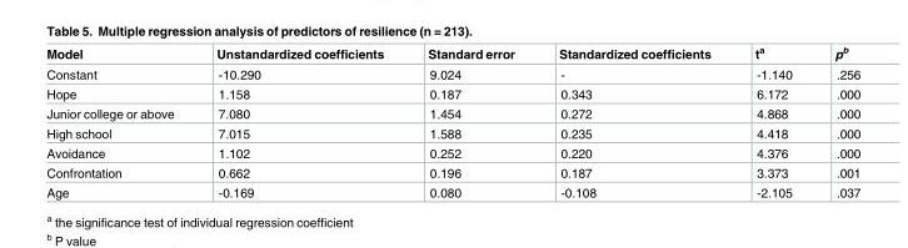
<table><thead><tr><td>Model</td><td>Unstandardized coefficients</td><td>Standard error</td><td>Standardized coefficients</td><td>t<sup>a</sup></td><td>p<sup>b</sup></td></tr></thead><tbody><tr><td>Constant</td><td>-10.290</td><td>9.024</td><td>-</td><td>-1.140</td><td>.256</td></tr><tr><td>Hope</td><td>1.158</td><td>0.187</td><td>0.343</td><td>6.172</td><td>.000</td></tr><tr><td>Junior college or above</td><td>7.080</td><td>1.454</td><td>0.272</td><td>4.868</td><td>.000</td></tr><tr><td>High school</td><td>7.015</td><td>1.588</td><td>0.235</td><td>4.418</td><td>.000</td></tr><tr><td>Avoidance</td><td>1.102</td><td>0.252</td><td>0.220</td><td>4.376</td><td>.000</td></tr><tr><td>Confrontation</td><td>0.662</td><td>0.196</td><td>0.187</td><td>3.373</td><td>.001</td></tr><tr><td>Age</td><td>-0.169</td><td>0.080</td><td>-0.108</td><td>-2.105</td><td>.037</td></tr></tbody></table>